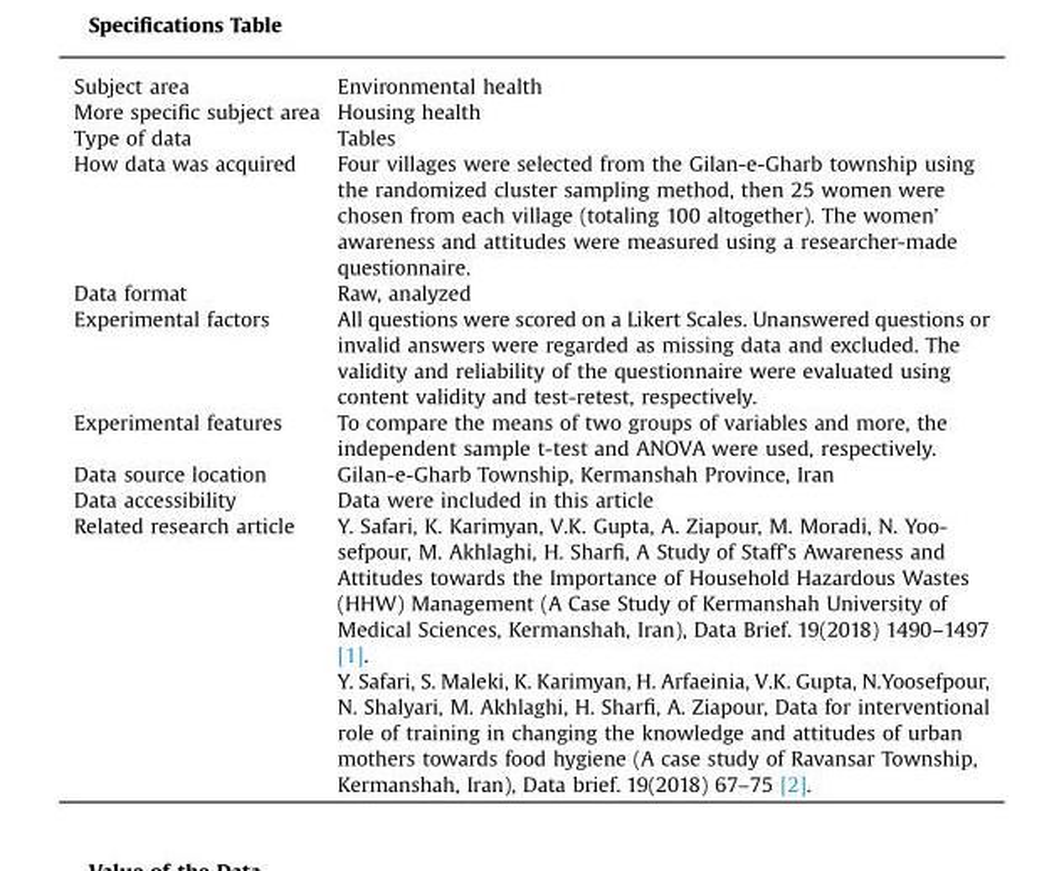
<table><tbody><tr><td>Subject area</td><td>Environmental health</td></tr><tr><td>More specific subject area</td><td>Housing health</td></tr><tr><td>Type of data</td><td>Tables</td></tr><tr><td>How data was acquired</td><td>Four villages were selected from the Gilan-e-Gharb township using the randomized cluster sampling method, then 25 women were chosen from each village (totaling 100 altogether). The women’ awareness and attitudes were measured using a researcher-made questionnaire.</td></tr><tr><td>Data format</td><td>Raw, analyzed</td></tr><tr><td>Experimental factors</td><td>All questions were scored on a Likert Scales. Unanswered questions or invalid answers were regarded as missing data and excluded. The validity and reliability of the questionnaire were evaluated using content validity and test-retest, respectively.</td></tr><tr><td>Experimental features</td><td>To compare the means of two groups of variables and more, the independent sample t-test and ANOVA were used, respectively.</td></tr><tr><td>Data source location</td><td>Gilan-e-Gharb Township, Kermanshah Province, Iran</td></tr><tr><td>Data accessibility</td><td>Data were included in this article</td></tr><tr><td rowspan="2">Related research article</td><td>Y. Safari, K. Karimyan, V.K. Gupta, A. Ziapour, M. Moradi, N. Yoo- sefpour, M. Akhlaghi, H. Sharfi, A Study of Staff&#x27;s Awareness and Attitudes towards the Importance of Household Hazardous Wastes (HHW) Management (A Case Study of Kermanshah University of Medical Sciences, Kermanshah, Iran), Data Brief. 19(2018) 1490–1497 [1].</td></tr><tr><td>Y. Safari, S. Maleki, K. Karimyan, H. Arfaeinia, V.K. Gupta, N.Yoosefpour, N. Shalyari, M. Akhlaghi, H. Sharfi, A. Ziapour, Data for interventional role of training in changing the knowledge and attitudes of urban mothers towards food hygiene (A case study of Ravansar Township, Kermanshah, Iran), Data brief. 19(2018) 67–75 [2].</td></tr></tbody></table>